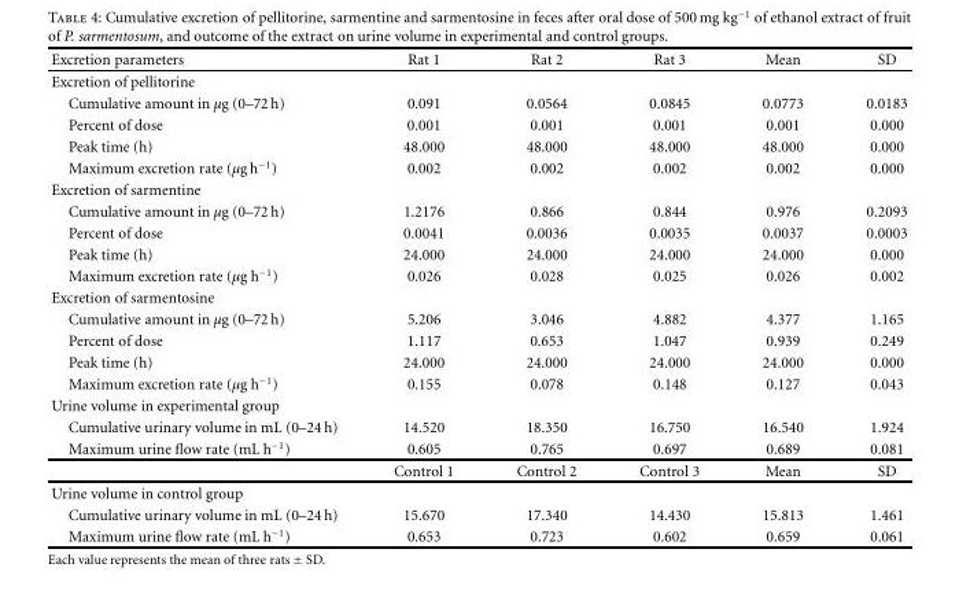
<table><thead><tr><td>Excretion parameters</td><td>Rat 1</td><td>Rat 2</td><td>Rat 3</td><td>Mean</td><td>SD</td></tr></thead><tbody><tr><td colspan="6">Excretion of pellitorine</td></tr><tr><td>Cumulative amount in µg (0–72 h)</td><td>0.091</td><td>0.0564</td><td>0.0845</td><td>0.0773</td><td>0.0183</td></tr><tr><td>Percent of dose</td><td>0.001</td><td>0.001</td><td>0.001</td><td>0.001</td><td>0.000</td></tr><tr><td>Peak time (h)</td><td>48.000</td><td>48.000</td><td>48.000</td><td>48.000</td><td>0.000</td></tr><tr><td>Maximum excretion rate (µg h<sup>−1</sup>)</td><td>0.002</td><td>0.002</td><td>0.002</td><td>0.002</td><td>0.000</td></tr><tr><td colspan="6">Excretion of sarmentine</td></tr><tr><td>Cumulative amount in µg (0–72 h)</td><td>1.2176</td><td>0.866</td><td>0.844</td><td>0.976</td><td>0.2093</td></tr><tr><td>Percent of dose</td><td>0.0041</td><td>0.0036</td><td>0.0035</td><td>0.0037</td><td>0.0003</td></tr><tr><td>Peak time (h)</td><td>24.000</td><td>24.000</td><td>24.000</td><td>24.000</td><td>0.000</td></tr><tr><td>Maximum excretion rate (µg h<sup>−1</sup>)</td><td>0.026</td><td>0.028</td><td>0.025</td><td>0.026</td><td>0.002</td></tr><tr><td colspan="6">Excretion of sarmentosine</td></tr><tr><td>Cumulative amount in µg (0–72 h)</td><td>5.206</td><td>3.046</td><td>4.882</td><td>4.377</td><td>1.165</td></tr><tr><td>Percent of dose</td><td>1.117</td><td>0.653</td><td>1.047</td><td>0.939</td><td>0.249</td></tr><tr><td>Peak time (h)</td><td>24.000</td><td>24.000</td><td>24.000</td><td>24.000</td><td>0.000</td></tr><tr><td>Maximum excretion rate (µg h<sup>−1</sup>)</td><td>0.155</td><td>0.078</td><td>0.148</td><td>0.127</td><td>0.043</td></tr><tr><td colspan="6">Urine volume in experimental group</td></tr><tr><td>Cumulative urinary volume in mL (0–24 h)</td><td>14.520</td><td>18.350</td><td>16.750</td><td>16.540</td><td>1.924</td></tr><tr><td rowspan="2">Maximum urine flow rate (mL h<sup>−1</sup>)</td><td>0.605</td><td>0.765</td><td>0.697</td><td>0.689</td><td>0.081</td></tr><tr><td>Control 1</td><td>Control 2</td><td>Control 3</td><td>Mean</td><td>SD</td></tr><tr><td colspan="6">Urine volume in control group</td></tr><tr><td>Cumulative urinary volume in mL (0–24 h)</td><td>15.670</td><td>17.340</td><td>14.430</td><td>15.813</td><td>1.461</td></tr><tr><td>Maximum urine flow rate (mL h<sup>−1</sup>)</td><td>0.653</td><td>0.723</td><td>0.602</td><td>0.659</td><td>0.061</td></tr></tbody></table>